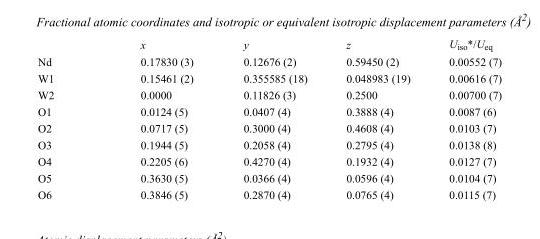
<table><thead><tr><td></td><td>x</td><td>y</td><td>z</td><td>U<sub>iso</sub>*/U<sub>eq</sub></td></tr></thead><tbody><tr><td>Nd</td><td>0.17830 (3)</td><td>0.12676 (2)</td><td>0.59450 (2)</td><td>0.00552 (7)</td></tr><tr><td>W1</td><td>0.15461 (2)</td><td>0.355585 (18)</td><td>0.048983 (19)</td><td>0.00616 (7)</td></tr><tr><td>W2</td><td>0.0000</td><td>0.11826 (3)</td><td>0.2500</td><td>0.00700 (7)</td></tr><tr><td>O1</td><td>0.0124 (5)</td><td>0.0407 (4)</td><td>0.3888 (4)</td><td>0.0087 (6)</td></tr><tr><td>O2</td><td>0.0717 (5)</td><td>0.3000 (4)</td><td>0.4608 (4)</td><td>0.0103 (7)</td></tr><tr><td>O3</td><td>0.1944 (5)</td><td>0.2058 (4)</td><td>0.2795 (4)</td><td>0.0138 (8)</td></tr><tr><td>O4</td><td>0.2205 (6)</td><td>0.4270 (4)</td><td>0.1932 (4)</td><td>0.0127 (7)</td></tr><tr><td>O5</td><td>0.3630 (5)</td><td>0.0366 (4)</td><td>0.0596 (4)</td><td>0.0104 (7)</td></tr><tr><td>O6</td><td>0.3846 (5)</td><td>0.2870 (4)</td><td>0.0765 (4)</td><td>0.0115 (7)</td></tr></tbody></table>